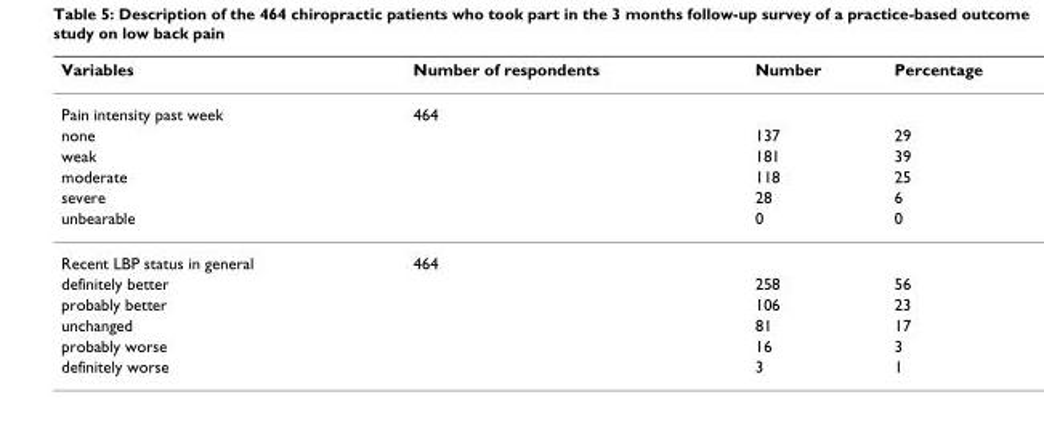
<table><thead><tr><td>Variables</td><td>Number of respondents</td><td>Number</td><td>Percentage</td></tr></thead><tbody><tr><td>Pain intensity past week</td><td>464</td><td></td><td></td></tr><tr><td>none</td><td></td><td>137</td><td>29</td></tr><tr><td>weak</td><td></td><td>181</td><td>39</td></tr><tr><td>moderate</td><td></td><td>118</td><td>25</td></tr><tr><td>severe</td><td></td><td>28</td><td>6</td></tr><tr><td>unbearable</td><td></td><td>0</td><td>0</td></tr><tr><td>Recent LBP status in general</td><td>464</td><td></td><td></td></tr><tr><td>definitely better</td><td></td><td>258</td><td>56</td></tr><tr><td>probably better</td><td></td><td>106</td><td>23</td></tr><tr><td>unchanged</td><td></td><td>81</td><td>17</td></tr><tr><td>probably worse</td><td></td><td>16</td><td>3</td></tr><tr><td>definitely worse</td><td></td><td>3</td><td>1</td></tr></tbody></table>